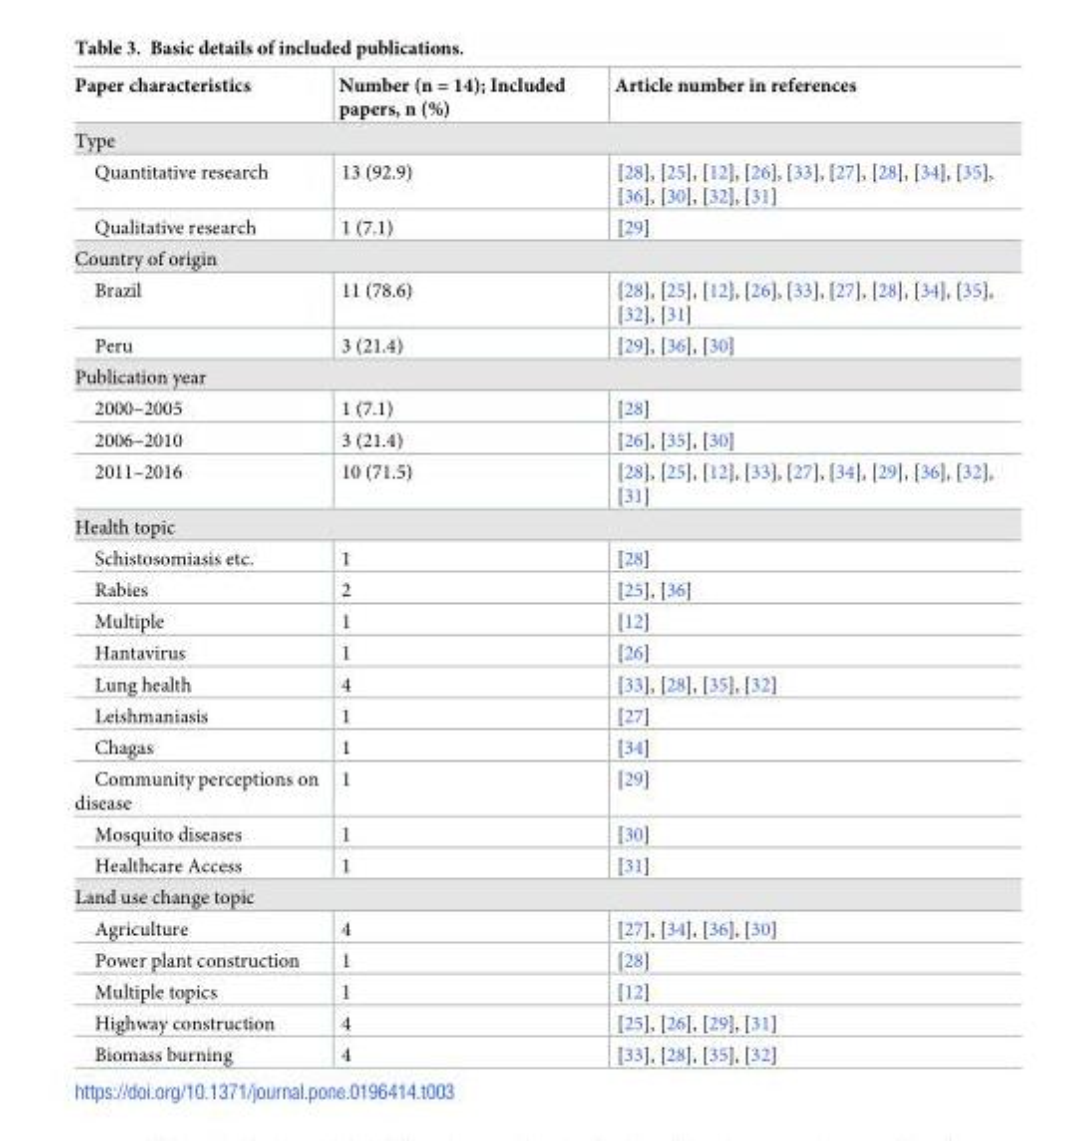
<table><thead><tr><td>Paper characteristics</td><td>Number (n = 14); Included papers, n (%)</td><td>Article number in references</td></tr></thead><tbody><tr><td colspan="3">Type</td></tr><tr><td>Quantitative research</td><td>13 (92.9)</td><td>[28], [25], [12], [26], [33], [27], [28], [34], [35], [36], [30], [32], [31]</td></tr><tr><td>Qualitative research</td><td>1 (7.1)</td><td>[29]</td></tr><tr><td colspan="3">Country of origin</td></tr><tr><td>Brazil</td><td>11 (78.6)</td><td>[28], [25], [12], [26], [33], [27], [28], [34], [35], [32], [31]</td></tr><tr><td>Peru</td><td>3 (21.4)</td><td>[29], [36], [30]</td></tr><tr><td colspan="3">Publication year</td></tr><tr><td>2000–2005</td><td>1 (7.1)</td><td>[28]</td></tr><tr><td>2006–2010</td><td>3 (21.4)</td><td>[26], [35], [30]</td></tr><tr><td>2011–2016</td><td>10 (71.5)</td><td>[28], [25], [12], [33], [27], [34], [29], [36], [32], [31]</td></tr><tr><td colspan="3">Health topic</td></tr><tr><td>Schistosomiasis etc.</td><td>1</td><td>[28]</td></tr><tr><td>Rabies</td><td>2</td><td>[25], [36]</td></tr><tr><td>Multiple</td><td>1</td><td>[12]</td></tr><tr><td>Hantavirus</td><td>1</td><td>[26]</td></tr><tr><td>Lung health</td><td>4</td><td>[33], [28], [35], [32]</td></tr><tr><td>Leishmaniasis</td><td>1</td><td>[27]</td></tr><tr><td>Chagas</td><td>1</td><td>[34]</td></tr><tr><td>Community perceptions on disease</td><td>1</td><td>[29]</td></tr><tr><td>Mosquito diseases</td><td>1</td><td>[30]</td></tr><tr><td>Healthcare Access</td><td>1</td><td>[31]</td></tr><tr><td colspan="3">Land use change topic</td></tr><tr><td>Agriculture</td><td>4</td><td>[27], [34], [36], [30]</td></tr><tr><td>Power plant construction</td><td>1</td><td>[28]</td></tr><tr><td>Multiple topics</td><td>1</td><td>[12]</td></tr><tr><td>Highway construction</td><td>4</td><td>[25], [26], [29], [31]</td></tr><tr><td>Biomass burning</td><td>4</td><td>[33], [28], [35], [32]</td></tr></tbody></table>